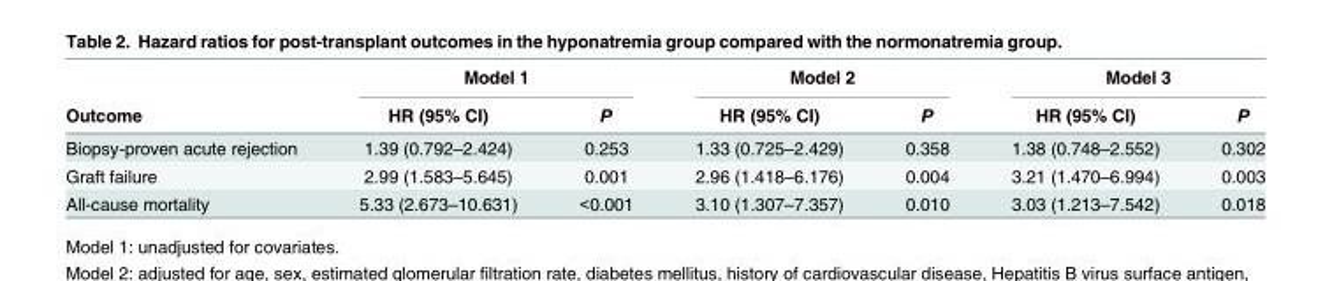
<table><thead><tr><td rowspan="2">Outcome</td><td colspan="2">Model 1</td><td colspan="2">Model 2</td><td colspan="2">Model 3</td></tr><tr><td>HR (95% CI)</td><td>P</td><td>HR (95% CI)</td><td>P</td><td>HR (95% CI)</td><td>P</td></tr></thead><tbody><tr><td>Biopsy-proven acute rejection</td><td>1.39 (0.792–2.424)</td><td>0.253</td><td>1.33 (0.725–2.429)</td><td>0.358</td><td>1.38 (0.748–2.552)</td><td>0.302</td></tr><tr><td>Graft failure</td><td>2.99 (1.583–5.645)</td><td>0.001</td><td>2.96 (1.418–6.176)</td><td>0.004</td><td>3.21 (1.470–6.994)</td><td>0.003</td></tr><tr><td>All-cause mortality</td><td>5.33 (2.673–10.631)</td><td>&lt;0.001</td><td>3.10 (1.307–7.357)</td><td>0.010</td><td>3.03 (1.213–7.542)</td><td>0.018</td></tr></tbody></table>